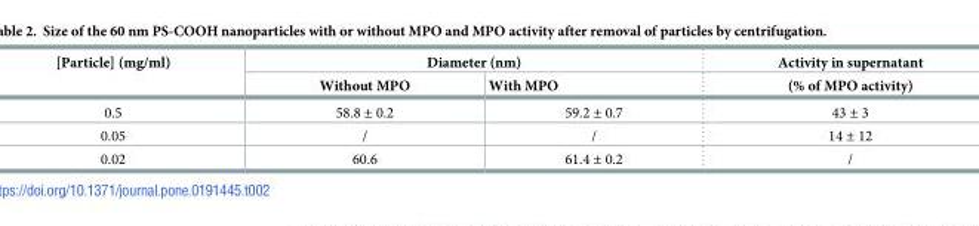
<table><thead><tr><td rowspan="2">[Particle] (mg/ml)</td><td colspan="2">Diameter (nm)</td><td rowspan="2">Activity in supernatant (% of MPO activity)</td></tr><tr><td>Without MPO</td><td>With MPO</td></tr></thead><tbody><tr><td>0.5</td><td>58.8 ± 0.2</td><td>59.2 ± 0.7</td><td>43 ± 3</td></tr><tr><td>0.05</td><td>/</td><td>/</td><td>14 ± 12</td></tr><tr><td>0.02</td><td>60.6</td><td>61.4 ± 0.2</td><td>/</td></tr></tbody></table>